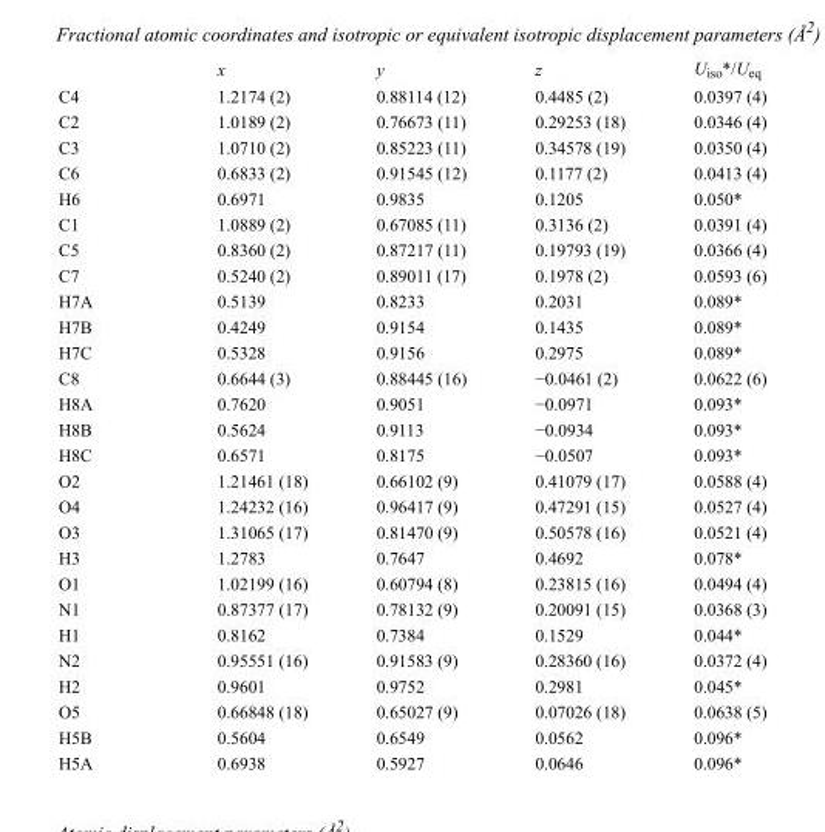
<table><thead><tr><td></td><td>x</td><td>y</td><td>z</td><td>U<sub>iso</sub>*/U<sub>eq</sub></td></tr></thead><tbody><tr><td>C4</td><td>1.2174 (2)</td><td>0.88114 (12)</td><td>0.4485 (2)</td><td>0.0397 (4)</td></tr><tr><td>C2</td><td>1.0189 (2)</td><td>0.76673 (11)</td><td>0.29253 (18)</td><td>0.0346 (4)</td></tr><tr><td>C3</td><td>1.0710 (2)</td><td>0.85223 (11)</td><td>0.34578 (19)</td><td>0.0350 (4)</td></tr><tr><td>C6</td><td>0.6833 (2)</td><td>0.91545 (12)</td><td>0.1177 (2)</td><td>0.0413 (4)</td></tr><tr><td>H6</td><td>0.6971</td><td>0.9835</td><td>0.1205</td><td>0.050*</td></tr><tr><td>C1</td><td>1.0889 (2)</td><td>0.67085 (11)</td><td>0.3136 (2)</td><td>0.0391 (4)</td></tr><tr><td>C5</td><td>0.8360 (2)</td><td>0.87217 (11)</td><td>0.19793 (19)</td><td>0.0366 (4)</td></tr><tr><td>C7</td><td>0.5240 (2)</td><td>0.89011 (17)</td><td>0.1978 (2)</td><td>0.0593 (6)</td></tr><tr><td>H7A</td><td>0.5139</td><td>0.8233</td><td>0.2031</td><td>0.089*</td></tr><tr><td>H7B</td><td>0.4249</td><td>0.9154</td><td>0.1435</td><td>0.089*</td></tr><tr><td>H7C</td><td>0.5328</td><td>0.9156</td><td>0.2975</td><td>0.089*</td></tr><tr><td>C8</td><td>0.6644 (3)</td><td>0.88445 (16)</td><td>−0.0461 (2)</td><td>0.0622 (6)</td></tr><tr><td>H8A</td><td>0.7620</td><td>0.9051</td><td>−0.0971</td><td>0.093*</td></tr><tr><td>H8B</td><td>0.5624</td><td>0.9113</td><td>−0.0934</td><td>0.093*</td></tr><tr><td>H8C</td><td>0.6571</td><td>0.8175</td><td>−0.0507</td><td>0.093*</td></tr><tr><td>O2</td><td>1.21461 (18)</td><td>0.66102 (9)</td><td>0.41079 (17)</td><td>0.0588 (4)</td></tr><tr><td>O4</td><td>1.24232 (16)</td><td>0.96417 (9)</td><td>0.47291 (15)</td><td>0.0527 (4)</td></tr><tr><td>O3</td><td>1.31065 (17)</td><td>0.81470 (9)</td><td>0.50578 (16)</td><td>0.0521 (4)</td></tr><tr><td>H3</td><td>1.2783</td><td>0.7647</td><td>0.4692</td><td>0.078*</td></tr><tr><td>O1</td><td>1.02199 (16)</td><td>0.60794 (8)</td><td>0.23815 (16)</td><td>0.0494 (4)</td></tr><tr><td>N1</td><td>0.87377 (17)</td><td>0.78132 (9)</td><td>0.20091 (15)</td><td>0.0368 (3)</td></tr><tr><td>H1</td><td>0.8162</td><td>0.7384</td><td>0.1529</td><td>0.044*</td></tr><tr><td>N2</td><td>0.95551 (16)</td><td>0.91583 (9)</td><td>0.28360 (16)</td><td>0.0372 (4)</td></tr><tr><td>H2</td><td>0.9601</td><td>0.9752</td><td>0.2981</td><td>0.045*</td></tr><tr><td>O5</td><td>0.66848 (18)</td><td>0.65027 (9)</td><td>0.07026 (18)</td><td>0.0638 (5)</td></tr><tr><td>H5B</td><td>0.5604</td><td>0.6549</td><td>0.0562</td><td>0.096*</td></tr><tr><td>H5A</td><td>0.6938</td><td>0.5927</td><td>0.0646</td><td>0.096*</td></tr></tbody></table>